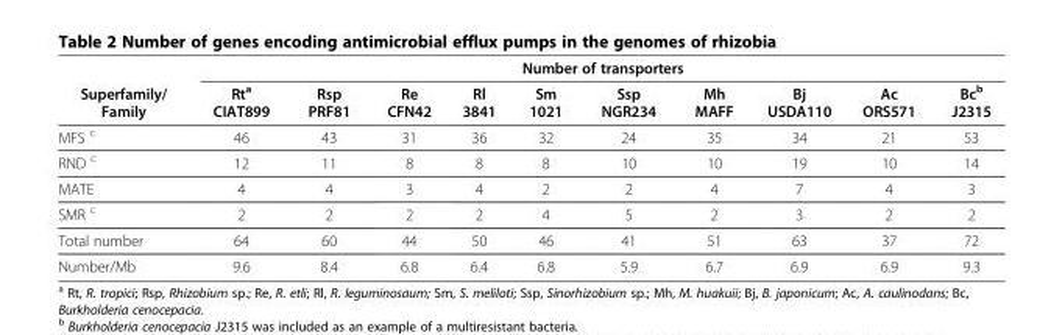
<table><thead><tr><td rowspan="2">Superfamily/ Family</td><td colspan="10">Number of transporters</td></tr><tr><td>Rt<sup>a</sup> CIAT899</td><td>Rsp PRF81</td><td>Re CFN42</td><td>Rl 3841</td><td>Sm 1021</td><td>Ssp NGR234</td><td>Mh MAFF</td><td>Bj USDA110</td><td>Ac ORS571</td><td>Bc<sup>b</sup> J2315</td></tr></thead><tbody><tr><td>MFS <sup>c</sup></td><td>46</td><td>43</td><td>31</td><td>36</td><td>32</td><td>24</td><td>35</td><td>34</td><td>21</td><td>53</td></tr><tr><td>RND <sup>c</sup></td><td>12</td><td>11</td><td>8</td><td>8</td><td>8</td><td>10</td><td>10</td><td>19</td><td>10</td><td>14</td></tr><tr><td>MATE</td><td>4</td><td>4</td><td>3</td><td>4</td><td>2</td><td>2</td><td>4</td><td>7</td><td>4</td><td>3</td></tr><tr><td>SMR <sup>c</sup></td><td>2</td><td>2</td><td>2</td><td>2</td><td>4</td><td>5</td><td>2</td><td>3</td><td>2</td><td>2</td></tr><tr><td>Total number</td><td>64</td><td>60</td><td>44</td><td>50</td><td>46</td><td>41</td><td>51</td><td>63</td><td>37</td><td>72</td></tr><tr><td>Number/Mb</td><td>9.6</td><td>8.4</td><td>6.8</td><td>6.4</td><td>6.8</td><td>5.9</td><td>6.7</td><td>6.9</td><td>6.9</td><td>9.3</td></tr></tbody></table>